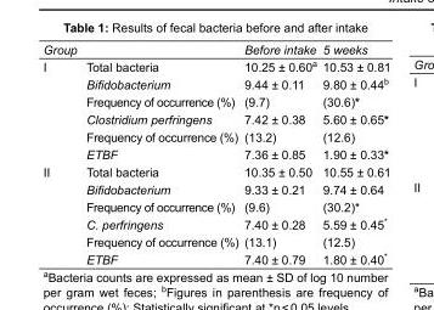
<table><tbody><tr><td>Group</td><td></td><td>Before intake</td><td>5 weeks</td></tr><tr><td rowspan="6">I</td><td>Total bacteria</td><td>10.25 ± 0.60<sup>a</sup></td><td>10.53 ± 0.81</td></tr><tr><td>Bifidobacterium</td><td>9.44 ± 0.11</td><td>9.80 ± 0.44<sup>b</sup></td></tr><tr><td>Frequency of occurrence (%)</td><td>(9.7)</td><td>(30.6)*</td></tr><tr><td>Clostridium perfringens</td><td>7.42 ± 0.38</td><td>5.60 ± 0.65*</td></tr><tr><td>Frequency of occurrence (%)</td><td>(13.2)</td><td>(12.6)</td></tr><tr><td>ETBF</td><td>7.36 ± 0.85</td><td>1.90 ± 0.33*</td></tr><tr><td rowspan="6">II</td><td>Total bacteria</td><td>10.35 ± 0.50</td><td>10.55 ± 0.61</td></tr><tr><td>Bifidobacterium</td><td>9.33 ± 0.21</td><td>9.74 ± 0.64</td></tr><tr><td>Frequency of occurrence (%)</td><td>(9.6)</td><td>(30.2)*</td></tr><tr><td>C. perfringens</td><td>7.40 ± 0.28</td><td>5.59 ± 0.45*</td></tr><tr><td>Frequency of occurrence (%)</td><td>(13.1)</td><td>(12.5)</td></tr><tr><td>ETBF</td><td>7.40 ± 0.79</td><td>1.80 ± 0.40*</td></tr></tbody></table>